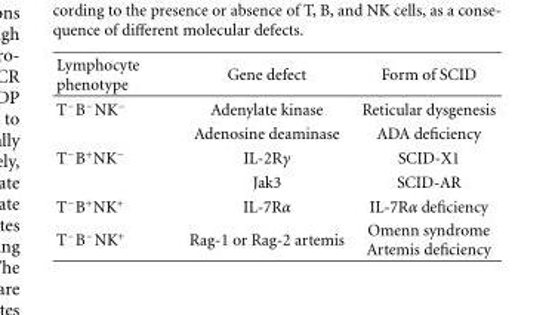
<table><thead><tr><td>Lymphocyte phenotype</td><td>Gene defect</td><td>Form of SCID</td></tr></thead><tbody><tr><td rowspan="2">T<sup>−</sup>B<sup>−</sup>NK<sup>−</sup></td><td>Adenylate kinase</td><td>Reticular dysgenesis</td></tr><tr><td>Adenosine deaminase</td><td>ADA deficiency</td></tr><tr><td rowspan="2">T<sup>−</sup>B<sup>+</sup>NK<sup>−</sup></td><td>IL-2Rγ</td><td>SCID-X1</td></tr><tr><td>Jak3</td><td>SCID-AR</td></tr><tr><td>T<sup>−</sup>B<sup>+</sup>NK<sup>+</sup></td><td>IL-7Rα</td><td>IL-7Rα deficiency</td></tr><tr><td>T<sup>−</sup>B<sup>−</sup>NK<sup>+</sup></td><td>Rag-1 or Rag-2 artemis</td><td>Omenn syndrome Artemis deficiency</td></tr></tbody></table>